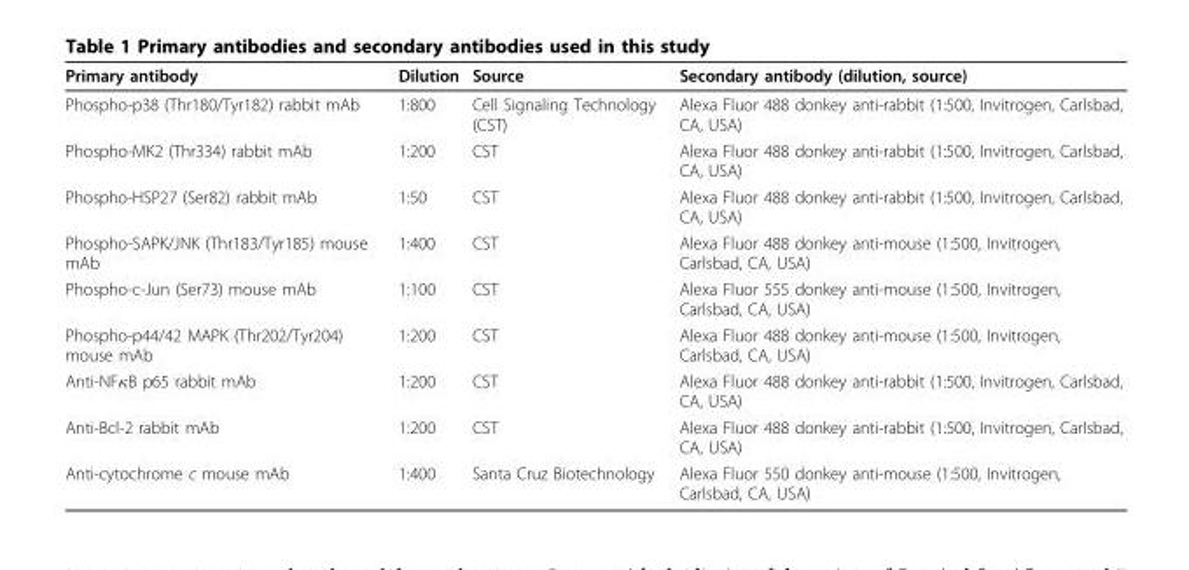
<table><thead><tr><td>Primary antibody</td><td>Dilution</td><td>Source</td><td>Secondary antibody (dilution, source)</td></tr></thead><tbody><tr><td>Phospho-p38 (Thr180/Tyr182) rabbit mAb</td><td>1:800</td><td>Cell Signaling Technology (CST)</td><td>Alexa Fluor 488 donkey anti-rabbit (1:500, Invitrogen, Carlsbad, CA, USA)</td></tr><tr><td>Phospho-MK2 (Thr334) rabbit mAb</td><td>1:200</td><td>CST</td><td>Alexa Fluor 488 donkey anti-rabbit (1:500, Invitrogen, Carlsbad, CA, USA)</td></tr><tr><td>Phospho-HSP27 (Ser82) rabbit mAb</td><td>1:50</td><td>CST</td><td>Alexa Fluor 488 donkey anti-rabbit (1:500, Invitrogen, Carlsbad, CA, USA)</td></tr><tr><td>Phospho-SAPK/JNK (Thr183/Tyr185) mouse mAb</td><td>1:400</td><td>CST</td><td>Alexa Fluor 488 donkey anti-mouse (1:500, Invitrogen, Carlsbad, CA, USA)</td></tr><tr><td>Phospho-c-Jun (Ser73) mouse mAb</td><td>1:100</td><td>CST</td><td>Alexa Fluor 555 donkey anti-mouse (1:500, Invitrogen, Carlsbad, CA, USA)</td></tr><tr><td>Phospho-p44/42 MAPK (Thr202/Tyr204) mouse mAb</td><td>1:200</td><td>CST</td><td>Alexa Fluor 488 donkey anti-mouse (1:500, Invitrogen, Carlsbad, CA, USA)</td></tr><tr><td>Anti-NFκB p65 rabbit mAb</td><td>1:200</td><td>CST</td><td>Alexa Fluor 488 donkey anti-rabbit (1:500, Invitrogen, Carlsbad, CA, USA)</td></tr><tr><td>Anti-Bcl-2 rabbit mAb</td><td>1:200</td><td>CST</td><td>Alexa Fluor 488 donkey anti-rabbit (1:500, Invitrogen, Carlsbad, CA, USA)</td></tr><tr><td>Anti-cytochrome c mouse mAb</td><td>1:400</td><td>Santa Cruz Biotechnology</td><td>Alexa Fluor 550 donkey anti-mouse (1:500, Invitrogen, Carlsbad, CA, USA)</td></tr></tbody></table>